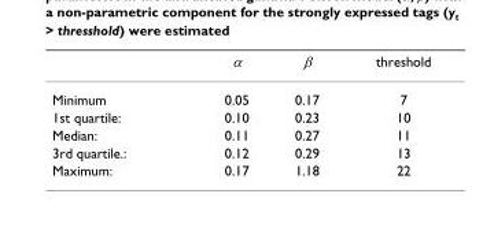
<table><thead><tr><td></td><td>α</td><td>β</td><td>threshold</td></tr></thead><tbody><tr><td>Minimum</td><td>0.05</td><td>0.17</td><td>7</td></tr><tr><td>1st quartile:</td><td>0.10</td><td>0.23</td><td>10</td></tr><tr><td>Median:</td><td>0.11</td><td>0.27</td><td>11</td></tr><tr><td>3rd quartile.:</td><td>0.12</td><td>0.29</td><td>13</td></tr><tr><td>Maximum:</td><td>0.17</td><td>1.18</td><td>22</td></tr></tbody></table>